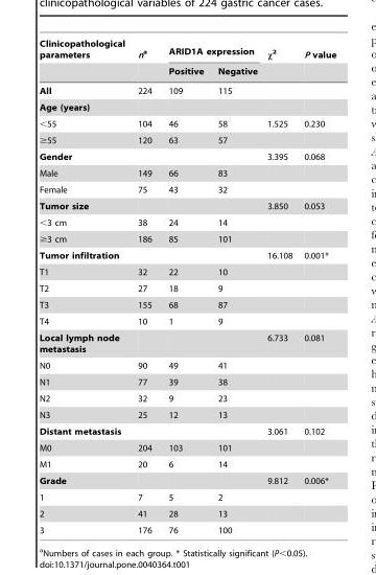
<table><thead><tr><td rowspan="2">Clinicopathological parameters</td><td rowspan="2">na</td><td colspan="2">ARID1A expression</td><td rowspan="2">χ<sup>2</sup></td><td rowspan="2">P value</td></tr><tr><td>Positive</td><td>Negative</td></tr></thead><tbody><tr><td>All</td><td>224</td><td>109</td><td>115</td><td></td><td></td></tr><tr><td colspan="6">Age (years)</td></tr><tr><td>&lt;55</td><td>104</td><td>46</td><td>58</td><td>1.525</td><td>0.230</td></tr><tr><td>≥55</td><td>120</td><td>63</td><td>57</td><td></td><td></td></tr><tr><td>Gender</td><td></td><td></td><td></td><td>3.395</td><td>0.068</td></tr><tr><td>Male</td><td>149</td><td>66</td><td>83</td><td></td><td></td></tr><tr><td>Female</td><td>75</td><td>43</td><td>32</td><td></td><td></td></tr><tr><td>Tumor size</td><td></td><td></td><td></td><td>3.850</td><td>0.053</td></tr><tr><td>&lt;3 cm</td><td>38</td><td>24</td><td>14</td><td></td><td></td></tr><tr><td>≥3 cm</td><td>186</td><td>85</td><td>101</td><td></td><td></td></tr><tr><td>Tumor infiltration</td><td></td><td></td><td></td><td>16.108</td><td>0.001*</td></tr><tr><td>T1</td><td>32</td><td>22</td><td>10</td><td></td><td></td></tr><tr><td>T2</td><td>27</td><td>18</td><td>9</td><td></td><td></td></tr><tr><td>T3</td><td>155</td><td>68</td><td>87</td><td></td><td></td></tr><tr><td>T4</td><td>10</td><td>1</td><td>9</td><td></td><td></td></tr><tr><td>Local lymph node metastasis</td><td></td><td></td><td></td><td>6.733</td><td>0.081</td></tr><tr><td>N0</td><td>90</td><td>49</td><td>41</td><td></td><td></td></tr><tr><td>N1</td><td>77</td><td>39</td><td>38</td><td></td><td></td></tr><tr><td>N2</td><td>32</td><td>9</td><td>23</td><td></td><td></td></tr><tr><td>N3</td><td>25</td><td>12</td><td>13</td><td></td><td></td></tr><tr><td>Distant metastasis</td><td></td><td></td><td></td><td>3.061</td><td>0.102</td></tr><tr><td>M0</td><td>204</td><td>103</td><td>101</td><td></td><td></td></tr><tr><td>M1</td><td>20</td><td>6</td><td>14</td><td></td><td></td></tr><tr><td>Grade</td><td></td><td></td><td></td><td>9.812</td><td>0.006*</td></tr><tr><td>1</td><td>7</td><td>5</td><td>2</td><td></td><td></td></tr><tr><td>2</td><td>41</td><td>28</td><td>13</td><td></td><td></td></tr><tr><td>3</td><td>176</td><td>76</td><td>100</td><td></td><td></td></tr></tbody></table>